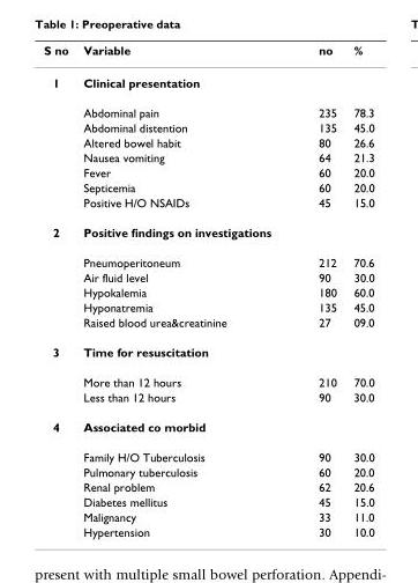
<table><thead><tr><td>S no</td><td>Variable</td><td>no</td><td>%</td></tr></thead><tbody><tr><td rowspan="8">1</td><td>Clinical presentation</td><td></td><td></td></tr><tr><td>Abdominal pain</td><td>235</td><td>78.3</td></tr><tr><td>Abdominal distention</td><td>135</td><td>45.0</td></tr><tr><td>Altered bowel habit</td><td>80</td><td>26.6</td></tr><tr><td>Nausea vomiting</td><td>64</td><td>21.3</td></tr><tr><td>Fever</td><td>60</td><td>20.0</td></tr><tr><td>Septicemia</td><td>60</td><td>20.0</td></tr><tr><td>Positive H/O NSAIDs</td><td>45</td><td>15.0</td></tr><tr><td rowspan="6">2</td><td>Positive findings on investigations</td><td></td><td></td></tr><tr><td>Pneumoperitoneum</td><td>212</td><td>70.6</td></tr><tr><td>Air fluid level</td><td>90</td><td>30.0</td></tr><tr><td>Hypokalemia</td><td>180</td><td>60.0</td></tr><tr><td>Hyponatremia</td><td>135</td><td>45.0</td></tr><tr><td>Raised blood urea&amp;creatinine</td><td>27</td><td>09.0</td></tr><tr><td rowspan="3">3</td><td>Time for resuscitation</td><td></td><td></td></tr><tr><td>More than 12 hours</td><td>210</td><td>70.0</td></tr><tr><td>Less than 12 hours</td><td>90</td><td>30.0</td></tr><tr><td rowspan="7">4</td><td>Associated co morbid</td><td></td><td></td></tr><tr><td>Family H/O Tuberculosis</td><td>90</td><td>30.0</td></tr><tr><td>Pulmonary tuberculosis</td><td>60</td><td>20.0</td></tr><tr><td>Renal problem</td><td>62</td><td>20.6</td></tr><tr><td>Diabetes mellitus</td><td>45</td><td>15.0</td></tr><tr><td>Malignancy</td><td>33</td><td>11.0</td></tr><tr><td>Hypertension</td><td>30</td><td>10.0</td></tr></tbody></table>